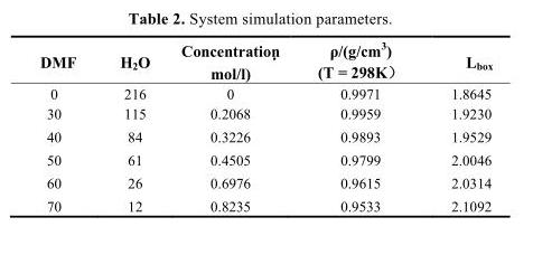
<table><thead><tr><td>DMF</td><td>H<sub>2</sub>O</td><td>Concentration mol/l)</td><td>ρ/(g/cm<sup>3</sup>) (T = 298K）</td><td>L<sub>box</sub></td></tr></thead><tbody><tr><td>0</td><td>216</td><td>0</td><td>0.9971</td><td>1.8645</td></tr><tr><td>30</td><td>115</td><td>0.2068</td><td>0.9959</td><td>1.9230</td></tr><tr><td>40</td><td>84</td><td>0.3226</td><td>0.9893</td><td>1.9529</td></tr><tr><td>50</td><td>61</td><td>0.4505</td><td>0.9799</td><td>2.0046</td></tr><tr><td>60</td><td>26</td><td>0.6976</td><td>0.9615</td><td>2.0314</td></tr><tr><td>70</td><td>12</td><td>0.8235</td><td>0.9533</td><td>2.1092</td></tr></tbody></table>